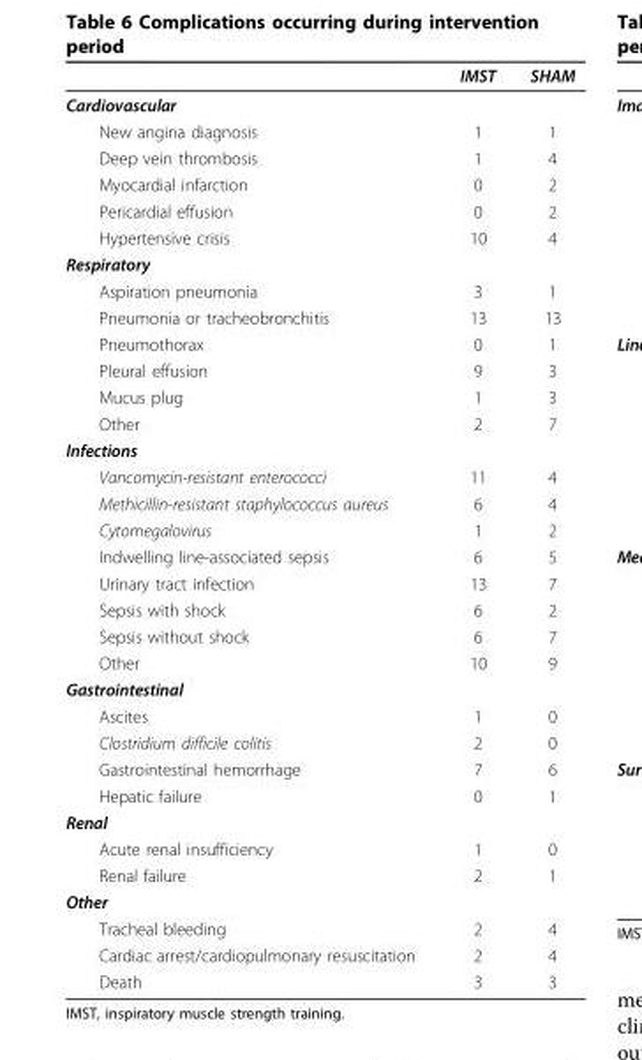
<table><thead><tr><td></td><td>IMST</td><td>SHAM</td></tr></thead><tbody><tr><td colspan="3">Cardiovascular</td></tr><tr><td>New angina diagnosis</td><td>1</td><td>1</td></tr><tr><td>Deep vein thrombosis</td><td>1</td><td>4</td></tr><tr><td>Myocardial infarction</td><td>0</td><td>2</td></tr><tr><td>Pericardial effusion</td><td>0</td><td>2</td></tr><tr><td>Hypertensive crisis</td><td>10</td><td>4</td></tr><tr><td colspan="3">Respiratory</td></tr><tr><td>Aspiration pneumonia</td><td>3</td><td>1</td></tr><tr><td>Pneumonia or tracheobronchitis</td><td>13</td><td>13</td></tr><tr><td>Pneumothorax</td><td>0</td><td>1</td></tr><tr><td>Pleural effusion</td><td>9</td><td>3</td></tr><tr><td>Mucus plug</td><td>1</td><td>3</td></tr><tr><td>Other</td><td>2</td><td>7</td></tr><tr><td colspan="3">Infections</td></tr><tr><td>Vancomycin-resistant enterococci</td><td>11</td><td>4</td></tr><tr><td>Methicillin-resistant staphylococcus aureus</td><td>6</td><td>4</td></tr><tr><td>Cytomegalovirus</td><td>1</td><td>2</td></tr><tr><td>Indwelling line-associated sepsis</td><td>6</td><td>5</td></tr><tr><td>Urinary tract infection</td><td>13</td><td>7</td></tr><tr><td>Sepsis with shock</td><td>6</td><td>2</td></tr><tr><td>Sepsis without shock</td><td>6</td><td>7</td></tr><tr><td>Other</td><td>10</td><td>9</td></tr><tr><td colspan="3">Gastrointestinal</td></tr><tr><td>Ascites</td><td>1</td><td>0</td></tr><tr><td>Clostridium difficile colitis</td><td>2</td><td>0</td></tr><tr><td>Gastrointestinal hemorrhage</td><td>7</td><td>6</td></tr><tr><td>Hepatic failure</td><td>0</td><td>1</td></tr><tr><td colspan="3">Renal</td></tr><tr><td>Acute renal insufficiency</td><td>1</td><td>0</td></tr><tr><td>Renal failure</td><td>2</td><td>1</td></tr><tr><td colspan="3">Other</td></tr><tr><td>Tracheal bleeding</td><td>2</td><td>4</td></tr><tr><td>Cardiac arrest/cardiopulmonary resuscitation</td><td>2</td><td>4</td></tr><tr><td>Death</td><td>3</td><td>3</td></tr></tbody></table>